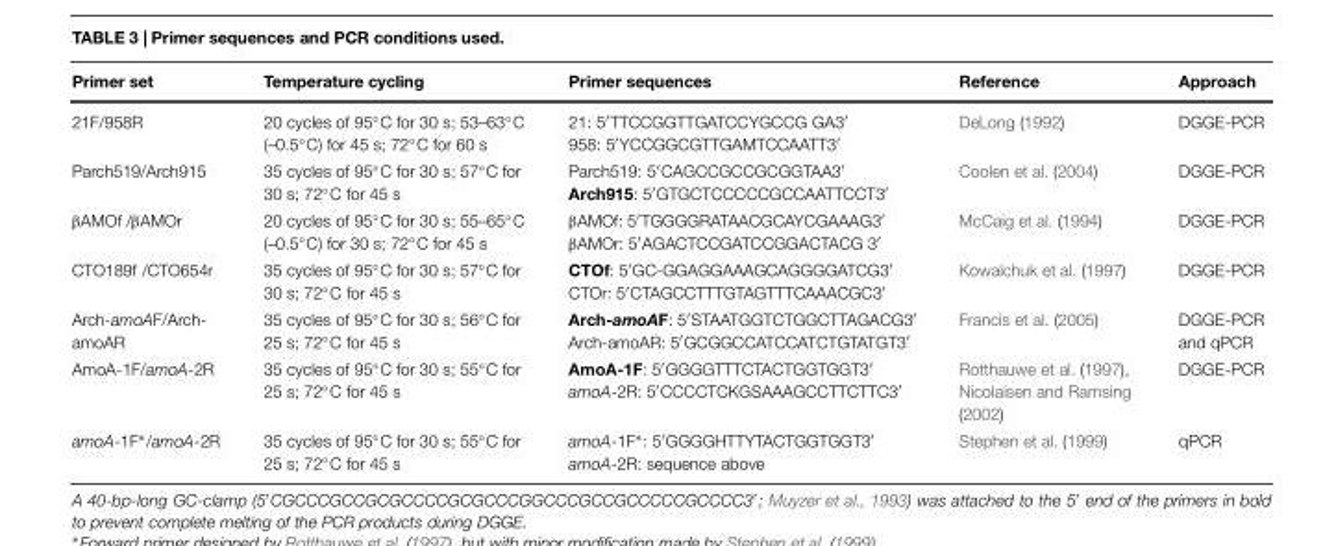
<table><thead><tr><td>Primer set</td><td>Temperature cycling</td><td>Primer sequences</td><td>Reference</td><td>Approach</td></tr></thead><tbody><tr><td>21F/958R</td><td>20 cycles of 95◦C for 30 s; 53–63◦C (–0.5◦C) for 45 s; 72◦C for 60 s</td><td>21: 5′TTCCGGTTGATCCYGCCG GA3′ 958: 5′YCCGGCGTTGAMTCCAATT3′</td><td>DeLong (1992)</td><td>DGGE-PCR</td></tr><tr><td>Parch519/Arch915</td><td>35 cycles of 95◦C for 30 s; 57◦C for 30 s; 72◦C for 45 s</td><td>Parch519: 5′CAGCCGCCGCGGTAA3′ Arch915: 5′GTGCTCCCCCGCCAATTCCT3′</td><td>Coolen et al. (2004)</td><td>DGGE-PCR</td></tr><tr><td>βAMOf /βAMOr</td><td>20 cycles of 95◦C for 30 s; 55–65◦C (–0.5◦C) for 30 s; 72◦C for 45 s</td><td>βAMOf: 5′TGGGGRATAACGCAYCGAAAG3′ βAMOr: 5′AGACTCCGATCCGGACTACG 3′</td><td>McCaig et al. (1994)</td><td>DGGE-PCR</td></tr><tr><td>CTO189f /CTO654r</td><td>35 cycles of 95◦C for 30 s; 57◦C for 30 s; 72◦C for 45 s</td><td>CTOf: 5′GC-GGAGGAAAGCAGGGGATCG3′ CTOr: 5′CTAGCCTTTGTAGTTTCAAACGC3′</td><td>Kowalchuk et al. (1997)</td><td>DGGE-PCR</td></tr><tr><td>Arch-amoAF/Arch- amoAR</td><td>35 cycles of 95◦C for 30 s; 56◦C for 25 s; 72◦C for 45 s</td><td>Arch-amoAF: 5′STAATGGTCTGGCTTAGACG3′ Arch-amoAR: 5′GCGGCCATCCATCTGTATGT3′</td><td>Francis et al. (2005)</td><td>DGGE-PCR and qPCR</td></tr><tr><td>AmoA-1F/amoA-2R</td><td>35 cycles of 95◦C for 30 s; 55◦C for 25 s; 72◦C for 45 s</td><td>AmoA-1F: 5′GGGGTTTCTACTGGTGGT3′ amoA-2R: 5′CCCCTCKGSAAAGCCTTCTTC3′</td><td>Rotthauwe et al. (1997), Nicolaisen and Ramsing (2002)</td><td>DGGE-PCR</td></tr><tr><td>amoA-1F∗/amoA-2R</td><td>35 cycles of 95◦C for 30 s; 55◦C for 25 s; 72◦C for 45 s</td><td>amoA-1F∗: 5′GGGGHTTYTACTGGTGGT3′ amoA-2R: sequence above</td><td>Stephen et al. (1999)</td><td>qPCR</td></tr></tbody></table>